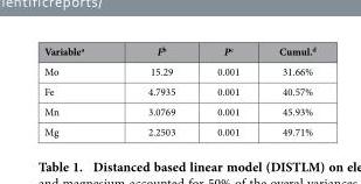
<table><thead><tr><td>Variable<sup>a</sup></td><td>F<sup>b</sup></td><td>P<sup>c</sup></td><td>Cumul.<sup>d</sup></td></tr></thead><tbody><tr><td>Mo</td><td>15.29</td><td>0.001</td><td>31.66%</td></tr><tr><td>Fe</td><td>4.7935</td><td>0.001</td><td>40.57%</td></tr><tr><td>Mn</td><td>3.0769</td><td>0.001</td><td>45.93%</td></tr><tr><td>Mg</td><td>2.2503</td><td>0.001</td><td>49.71%</td></tr></tbody></table>